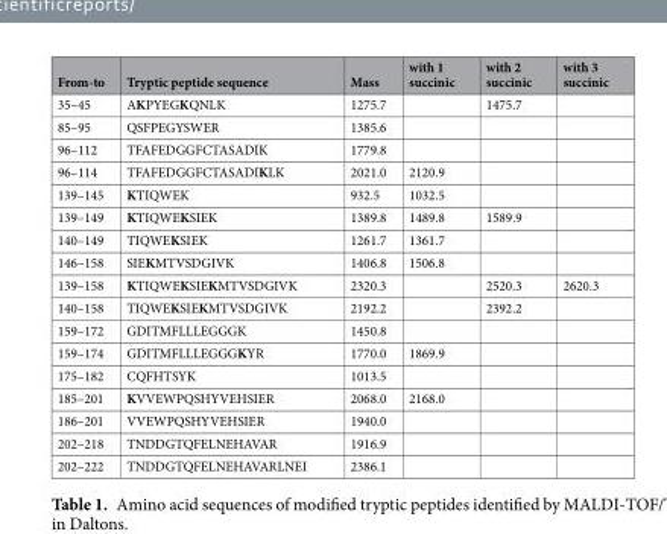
<table><thead><tr><td>From-to</td><td>Tryptic peptide sequence</td><td>Mass</td><td>with 1 succinic</td><td>with 2 succinic</td><td>with 3 succinic</td></tr></thead><tbody><tr><td>35–45</td><td>AKPYEGKQNLK</td><td>1275.7</td><td></td><td>1475.7</td><td></td></tr><tr><td>85–95</td><td>QSFPEGYSWER</td><td>1385.6</td><td></td><td></td><td></td></tr><tr><td>96–112</td><td>TFAFEDGGFCTASADIK</td><td>1779.8</td><td></td><td></td><td></td></tr><tr><td>96–114</td><td>TFAFEDGGFCTASADIKLK</td><td>2021.0</td><td>2120.9</td><td></td><td></td></tr><tr><td>139–145</td><td>KTIQWEK</td><td>932.5</td><td>1032.5</td><td></td><td></td></tr><tr><td>139–149</td><td>KTIQWEKSIEK</td><td>1389.8</td><td>1489.8</td><td>1589.9</td><td></td></tr><tr><td>140–149</td><td>TIQWEKSIEK</td><td>1261.7</td><td>1361.7</td><td></td><td></td></tr><tr><td>146–158</td><td>SIEKMTVSDGIVK</td><td>1406.8</td><td>1506.8</td><td></td><td></td></tr><tr><td>139–158</td><td>KTIQWEKSIEKMTVSDGIVK</td><td>2320.3</td><td></td><td>2520.3</td><td>2620.3</td></tr><tr><td>140–158</td><td>TIQWEKSIEKMTVSDGIVK</td><td>2192.2</td><td></td><td>2392.2</td><td></td></tr><tr><td>159–172</td><td>GDITMFLLLEGGGK</td><td>1450.8</td><td></td><td></td><td></td></tr><tr><td>159–174</td><td>GDITMFLLLEGGGKYR</td><td>1770.0</td><td>1869.9</td><td></td><td></td></tr><tr><td>175–182</td><td>CQFHTSYK</td><td>1013.5</td><td></td><td></td><td></td></tr><tr><td>185–201</td><td>KVVEWPQSHYVEHSIER</td><td>2068.0</td><td>2168.0</td><td></td><td></td></tr><tr><td>186–201</td><td>VVEWPQSHYVEHSIER</td><td>1940.0</td><td></td><td></td><td></td></tr><tr><td>202–218</td><td>TNDDGTQFELNEHAVAR</td><td>1916.9</td><td></td><td></td><td></td></tr><tr><td>202–222</td><td>TNDDGTQFELNEHAVARLNEI</td><td>2386.1</td><td></td><td></td><td></td></tr></tbody></table>